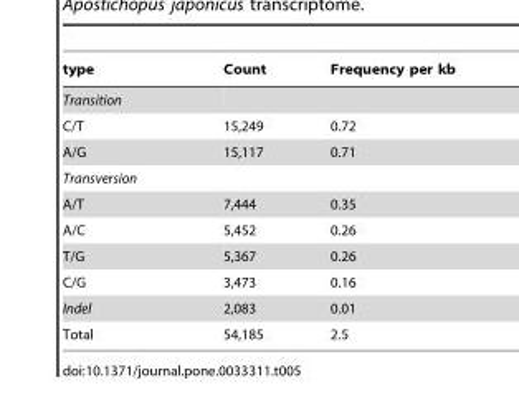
<table><thead><tr><td>type</td><td>Count</td><td>Frequency per kb</td></tr></thead><tbody><tr><td colspan="3">Transition</td></tr><tr><td>C/T</td><td>15,249</td><td>0.72</td></tr><tr><td>A/G</td><td>15,117</td><td>0.71</td></tr><tr><td colspan="3">Transversion</td></tr><tr><td>A/T</td><td>7,444</td><td>0.35</td></tr><tr><td>A/C</td><td>5,452</td><td>0.26</td></tr><tr><td>T/G</td><td>5,367</td><td>0.26</td></tr><tr><td>C/G</td><td>3,473</td><td>0.16</td></tr><tr><td>Indel</td><td>2,083</td><td>0.01</td></tr><tr><td>Total</td><td>54,185</td><td>2.5</td></tr></tbody></table>